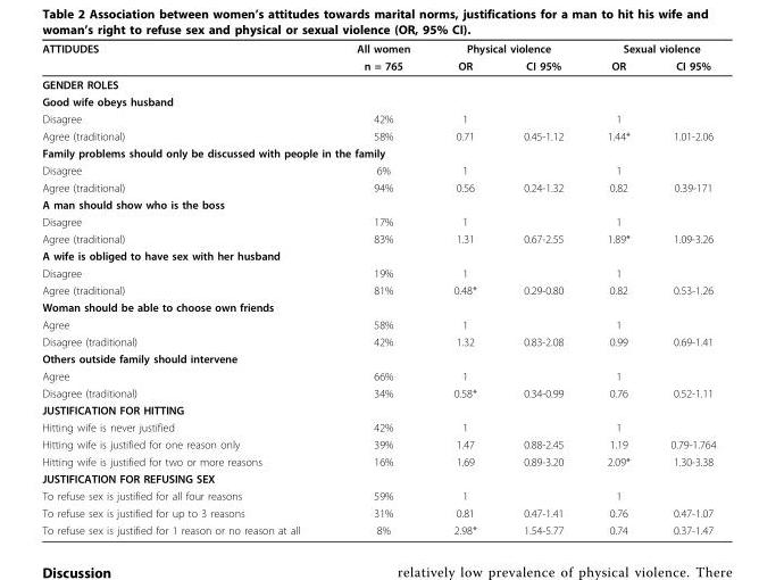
<table><thead><tr><td rowspan="2">ATTIDUDES</td><td rowspan="2">All women n = 765</td><td colspan="2">Physical violence</td><td colspan="2">Sexual violence</td></tr><tr><td>OR</td><td>CI 95%</td><td>OR</td><td>CI 95%</td></tr></thead><tbody><tr><td colspan="6">GENDER ROLES</td></tr><tr><td colspan="6">Good wife obeys husband</td></tr><tr><td>Disagree</td><td>42%</td><td>1</td><td></td><td>1</td><td></td></tr><tr><td>Agree (traditional)</td><td>58%</td><td>0.71</td><td>0.45-1.12</td><td>1.44*</td><td>1.01-2.06</td></tr><tr><td colspan="6">Family problems should only be discussed with people in the family</td></tr><tr><td>Disagree</td><td>6%</td><td>1</td><td></td><td>1</td><td></td></tr><tr><td>Agree (traditional)</td><td>94%</td><td>0.56</td><td>0.24-1.32</td><td>0.82</td><td>0.39-171</td></tr><tr><td colspan="6">A man should show who is the boss</td></tr><tr><td>Disagree</td><td>17%</td><td>1</td><td></td><td>1</td><td></td></tr><tr><td>Agree (traditional)</td><td>83%</td><td>1.31</td><td>0.67-2.55</td><td>1.89*</td><td>1.09-3.26</td></tr><tr><td colspan="6">A wife is obliged to have sex with her husband</td></tr><tr><td>Disagree</td><td>19%</td><td>1</td><td></td><td>1</td><td></td></tr><tr><td>Agree (traditional)</td><td>81%</td><td>0.48*</td><td>0.29-0.80</td><td>0.82</td><td>0.53-1.26</td></tr><tr><td colspan="6">Woman should be able to choose own friends</td></tr><tr><td>Agree</td><td>58%</td><td>1</td><td></td><td>1</td><td></td></tr><tr><td>Disagree (traditional)</td><td>42%</td><td>1.32</td><td>0.83-2.08</td><td>0.99</td><td>0.69-1.41</td></tr><tr><td colspan="6">Others outside family should intervene</td></tr><tr><td>Agree</td><td>66%</td><td>1</td><td></td><td>1</td><td></td></tr><tr><td>Disagree (traditional)</td><td>34%</td><td>0.58*</td><td>0.34-0.99</td><td>0.76</td><td>0.52-1.11</td></tr><tr><td colspan="6">JUSTIFICATION FOR HITTING</td></tr><tr><td>Hitting wife is never justified</td><td>42%</td><td>1</td><td></td><td>1</td><td></td></tr><tr><td>Hitting wife is justified for one reason only</td><td>39%</td><td>1.47</td><td>0.88-2.45</td><td>1.19</td><td>0.79-1.764</td></tr><tr><td>Hitting wife is justified for two or more reasons</td><td>16%</td><td>1.69</td><td>0.89-3.20</td><td>2.09*</td><td>1.30-3.38</td></tr><tr><td colspan="6">JUSTIFICATION FOR REFUSING SEX</td></tr><tr><td>To refuse sex is justified for all four reasons</td><td>59%</td><td>1</td><td></td><td>1</td><td></td></tr><tr><td>To refuse sex is justified for up to 3 reasons</td><td>31%</td><td>0.81</td><td>0.47-1.41</td><td>0.76</td><td>0.47-1.07</td></tr><tr><td>To refuse sex is justified for 1 reason or no reason at all</td><td>8%</td><td>2.98*</td><td>1.54-5.77</td><td>0.74</td><td>0.37-1.47</td></tr></tbody></table>